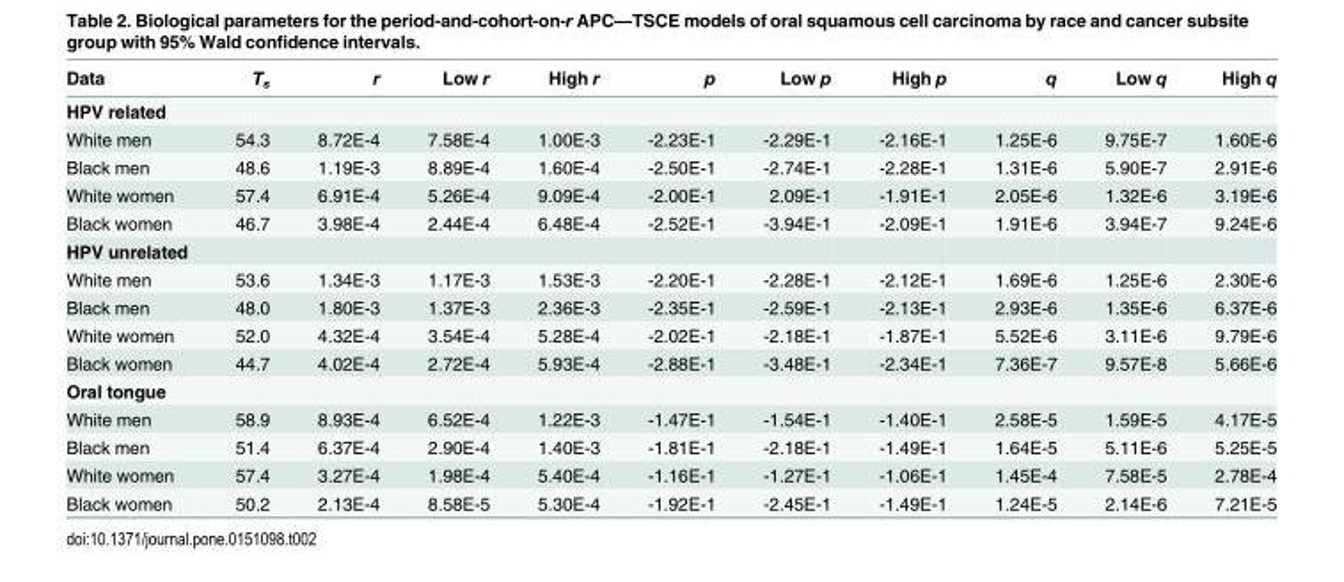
<table><thead><tr><td>Data</td><td>T<sub>s</sub></td><td>r</td><td>Low r</td><td>High r</td><td>p</td><td>Low p</td><td>High p</td><td>q</td><td>Low q</td><td>High q</td></tr></thead><tbody><tr><td colspan="11">HPV related</td></tr><tr><td>White men</td><td>54.3</td><td>8.72E-4</td><td>7.58E-4</td><td>1.00E-3</td><td>-2.23E-1</td><td>-2.29E-1</td><td>-2.16E-1</td><td>1.25E-6</td><td>9.75E-7</td><td>1.60E-6</td></tr><tr><td>Black men</td><td>48.6</td><td>1.19E-3</td><td>8.89E-4</td><td>1.60E-4</td><td>-2.50E-1</td><td>-2.74E-1</td><td>-2.28E-1</td><td>1.31E-6</td><td>5.90E-7</td><td>2.91E-6</td></tr><tr><td>White women</td><td>57.4</td><td>6.91E-4</td><td>5.26E-4</td><td>9.09E-4</td><td>-2.00E-1</td><td>2.09E-1</td><td>-1.91E-1</td><td>2.05E-6</td><td>1.32E-6</td><td>3.19E-6</td></tr><tr><td>Black women</td><td>46.7</td><td>3.98E-4</td><td>2.44E-4</td><td>6.48E-4</td><td>-2.52E-1</td><td>-3.94E-1</td><td>-2.09E-1</td><td>1.91E-6</td><td>3.94E-7</td><td>9.24E-6</td></tr><tr><td colspan="11">HPV unrelated</td></tr><tr><td>White men</td><td>53.6</td><td>1.34E-3</td><td>1.17E-3</td><td>1.53E-3</td><td>-2.20E-1</td><td>-2.28E-1</td><td>-2.12E-1</td><td>1.69E-6</td><td>1.25E-6</td><td>2.30E-6</td></tr><tr><td>Black men</td><td>48.0</td><td>1.80E-3</td><td>1.37E-3</td><td>2.36E-3</td><td>-2.35E-1</td><td>-2.59E-1</td><td>-2.13E-1</td><td>2.93E-6</td><td>1.35E-6</td><td>6.37E-6</td></tr><tr><td>White women</td><td>52.0</td><td>4.32E-4</td><td>3.54E-4</td><td>5.28E-4</td><td>-2.02E-1</td><td>-2.18E-1</td><td>-1.87E-1</td><td>5.52E-6</td><td>3.11E-6</td><td>9.79E-6</td></tr><tr><td>Black women</td><td>44.7</td><td>4.02E-4</td><td>2.72E-4</td><td>5.93E-4</td><td>-2.88E-1</td><td>-3.48E-1</td><td>-2.34E-1</td><td>7.36E-7</td><td>9.57E-8</td><td>5.66E-6</td></tr><tr><td colspan="11">Oral tongue</td></tr><tr><td>White men</td><td>58.9</td><td>8.93E-4</td><td>6.52E-4</td><td>1.22E-3</td><td>-1.47E-1</td><td>-1.54E-1</td><td>-1.40E-1</td><td>2.58E-5</td><td>1.59E-5</td><td>4.17E-5</td></tr><tr><td>Black men</td><td>51.4</td><td>6.37E-4</td><td>2.90E-4</td><td>1.40E-3</td><td>-1.81E-1</td><td>-2.18E-1</td><td>-1.49E-1</td><td>1.64E-5</td><td>5.11E-6</td><td>5.25E-5</td></tr><tr><td>White women</td><td>57.4</td><td>3.27E-4</td><td>1.98E-4</td><td>5.40E-4</td><td>-1.16E-1</td><td>-1.27E-1</td><td>-1.06E-1</td><td>1.45E-4</td><td>7.58E-5</td><td>2.78E-4</td></tr><tr><td>Black women</td><td>50.2</td><td>2.13E-4</td><td>8.58E-5</td><td>5.30E-4</td><td>-1.92E-1</td><td>-2.45E-1</td><td>-1.49E-1</td><td>1.24E-5</td><td>2.14E-6</td><td>7.21E-5</td></tr></tbody></table>